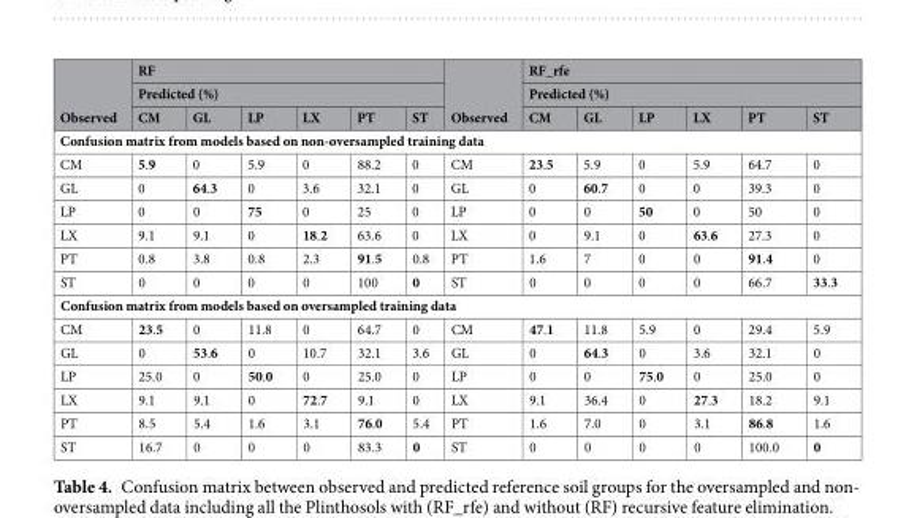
<table><thead><tr><td rowspan="3">Observed</td><td rowspan="2" colspan="6">RF Predicted (%)</td><td rowspan="3">Observed</td><td rowspan="2" colspan="6">RF_rfe Predicted (%)</td></tr><tr></tr><tr><td>CM</td><td>GL</td><td>LP</td><td>LX</td><td>PT</td><td>ST</td><td>CM</td><td>GL</td><td>LP</td><td>LX</td><td>PT</td><td>ST</td></tr></thead><tbody><tr><td colspan="14">Confusion matrix from models based on non-oversampled training data</td></tr><tr><td>CM</td><td>5.9</td><td>0</td><td>5.9</td><td>0</td><td>88.2</td><td>0</td><td>CM</td><td>23.5</td><td>5.9</td><td>0</td><td>5.9</td><td>64.7</td><td>0</td></tr><tr><td>GL</td><td>0</td><td>64.3</td><td>0</td><td>3.6</td><td>32.1</td><td>0</td><td>GL</td><td>0</td><td>60.7</td><td>0</td><td>0</td><td>39.3</td><td>0</td></tr><tr><td>LP</td><td>0</td><td>0</td><td>75</td><td>0</td><td>25</td><td>0</td><td>LP</td><td>0</td><td>0</td><td>50</td><td>0</td><td>50</td><td>0</td></tr><tr><td>LX</td><td>9.1</td><td>9.1</td><td>0</td><td>18.2</td><td>63.6</td><td>0</td><td>LX</td><td>0</td><td>9.1</td><td>0</td><td>63.6</td><td>27.3</td><td>0</td></tr><tr><td>PT</td><td>0.8</td><td>3.8</td><td>0.8</td><td>2.3</td><td>91.5</td><td>0.8</td><td>PT</td><td>1.6</td><td>7</td><td>0</td><td>0</td><td>91.4</td><td>0</td></tr><tr><td>ST</td><td>0</td><td>0</td><td>0</td><td>0</td><td>100</td><td>0</td><td>ST</td><td>0</td><td>0</td><td>0</td><td>0</td><td>66.7</td><td>33.3</td></tr><tr><td colspan="14">Confusion matrix from models based on oversampled training data</td></tr><tr><td>CM</td><td>23.5</td><td>0</td><td>11.8</td><td>0</td><td>64.7</td><td>0</td><td>CM</td><td>47.1</td><td>11.8</td><td>5.9</td><td>0</td><td>29.4</td><td>5.9</td></tr><tr><td>GL</td><td>0</td><td>53.6</td><td>0</td><td>10.7</td><td>32.1</td><td>3.6</td><td>GL</td><td>0</td><td>64.3</td><td>0</td><td>3.6</td><td>32.1</td><td>0</td></tr><tr><td>LP</td><td>25.0</td><td>0</td><td>50.0</td><td>0</td><td>25.0</td><td>0</td><td>LP</td><td>0</td><td>0</td><td>75.0</td><td>0</td><td>25.0</td><td>0</td></tr><tr><td>LX</td><td>9.1</td><td>9.1</td><td>0</td><td>72.7</td><td>9.1</td><td>0</td><td>LX</td><td>9.1</td><td>36.4</td><td>0</td><td>27.3</td><td>18.2</td><td>9.1</td></tr><tr><td>PT</td><td>8.5</td><td>5.4</td><td>1.6</td><td>3.1</td><td>76.0</td><td>5.4</td><td>PT</td><td>1.6</td><td>7.0</td><td>0</td><td>3.1</td><td>86.8</td><td>1.6</td></tr><tr><td>ST</td><td>16.7</td><td>0</td><td>0</td><td>0</td><td>83.3</td><td>0</td><td>ST</td><td>0</td><td>0</td><td>0</td><td>0</td><td>100.0</td><td>0</td></tr></tbody></table>